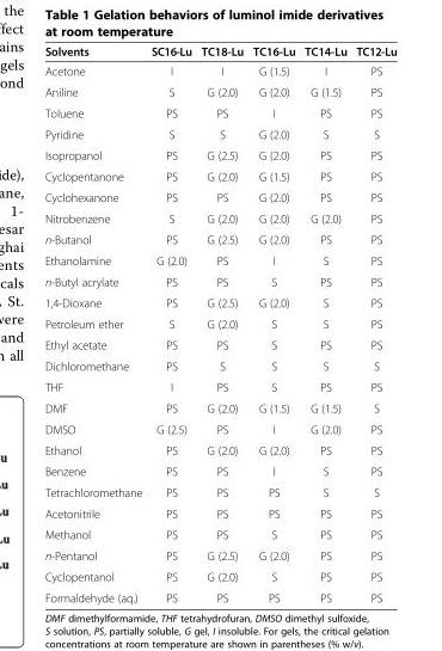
<table><thead><tr><td>Solvents</td><td>SC16-Lu</td><td>TC18-Lu</td><td>TC16-Lu</td><td>TC14-Lu</td><td>TC12-Lu</td></tr></thead><tbody><tr><td>Acetone</td><td>I</td><td>I</td><td>G (1.5)</td><td>I</td><td>PS</td></tr><tr><td>Aniline</td><td>S</td><td>G (2.0)</td><td>G (2.0)</td><td>G (1.5)</td><td>PS</td></tr><tr><td>Toluene</td><td>PS</td><td>PS</td><td>I</td><td>PS</td><td>PS</td></tr><tr><td>Pyridine</td><td>S</td><td>S</td><td>G (2.0)</td><td>S</td><td>S</td></tr><tr><td>Isopropanol</td><td>PS</td><td>G (2.5)</td><td>G (2.0)</td><td>PS</td><td>PS</td></tr><tr><td>Cyclopentanone</td><td>PS</td><td>G (2.0)</td><td>G (1.5)</td><td>PS</td><td>PS</td></tr><tr><td>Cyclohexanone</td><td>PS</td><td>PS</td><td>G (2.0)</td><td>PS</td><td>PS</td></tr><tr><td>Nitrobenzene</td><td>S</td><td>G (2.0)</td><td>G (2.0)</td><td>G (2.0)</td><td>PS</td></tr><tr><td>n-Butanol</td><td>PS</td><td>G (2.5)</td><td>G (2.0)</td><td>PS</td><td>PS</td></tr><tr><td>Ethanolamine</td><td>G (2.0)</td><td>PS</td><td>I</td><td>S</td><td>PS</td></tr><tr><td>n-Butyl acrylate</td><td>PS</td><td>PS</td><td>S</td><td>PS</td><td>PS</td></tr><tr><td>1,4-Dioxane</td><td>PS</td><td>G (2.5)</td><td>G (2.0)</td><td>S</td><td>PS</td></tr><tr><td>Petroleum ether</td><td>S</td><td>G (2.0)</td><td>S</td><td>S</td><td>PS</td></tr><tr><td>Ethyl acetate</td><td>PS</td><td>PS</td><td>S</td><td>PS</td><td>PS</td></tr><tr><td>Dichloromethane</td><td>PS</td><td>S</td><td>S</td><td>S</td><td>S</td></tr><tr><td>THF</td><td>I</td><td>PS</td><td>S</td><td>PS</td><td>PS</td></tr><tr><td>DMF</td><td>PS</td><td>G (2.0)</td><td>G (1.5)</td><td>G (1.5)</td><td>S</td></tr><tr><td>DMSO</td><td>G (2.5)</td><td>PS</td><td>I</td><td>G (2.0)</td><td>PS</td></tr><tr><td>Ethanol</td><td>PS</td><td>G (2.0)</td><td>G (2.0)</td><td>PS</td><td>PS</td></tr><tr><td>Benzene</td><td>PS</td><td>PS</td><td>I</td><td>S</td><td>PS</td></tr><tr><td>Tetrachloromethane</td><td>PS</td><td>PS</td><td>PS</td><td>S</td><td>S</td></tr><tr><td>Acetonitrile</td><td>PS</td><td>PS</td><td>PS</td><td>PS</td><td>PS</td></tr><tr><td>Methanol</td><td>PS</td><td>PS</td><td>S</td><td>PS</td><td>PS</td></tr><tr><td>n-Pentanol</td><td>PS</td><td>G (2.5)</td><td>G (2.0)</td><td>PS</td><td>PS</td></tr><tr><td>Cyclopentanol</td><td>PS</td><td>G (2.0)</td><td>S</td><td>PS</td><td>PS</td></tr><tr><td>Formaldehyde (aq.)</td><td>PS</td><td>PS</td><td>PS</td><td>PS</td><td>PS</td></tr></tbody></table>